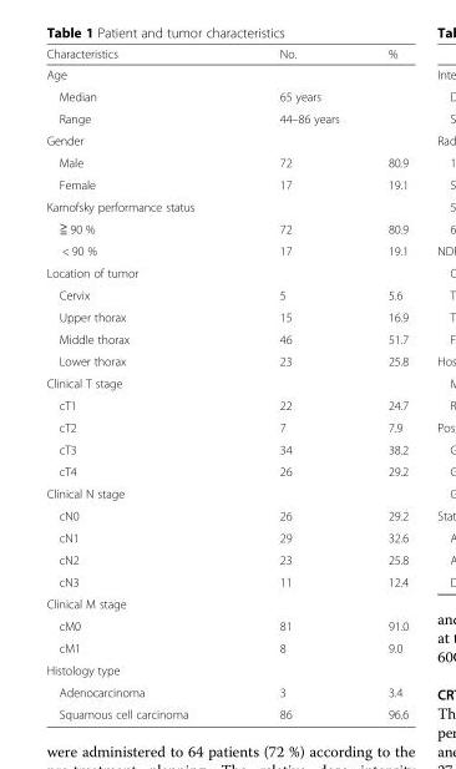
<table><thead><tr><td>Characteristics</td><td>No.</td><td>%</td></tr></thead><tbody><tr><td colspan="3">Age</td></tr><tr><td>Median</td><td colspan="2">65 years</td></tr><tr><td>Range</td><td colspan="2">44–86 years</td></tr><tr><td colspan="3">Gender</td></tr><tr><td>Male</td><td>72</td><td>80.9</td></tr><tr><td>Female</td><td>17</td><td>19.1</td></tr><tr><td colspan="3">Karnofsky performance status</td></tr><tr><td>≧ 90 %</td><td>72</td><td>80.9</td></tr><tr><td>&lt; 90 %</td><td>17</td><td>19.1</td></tr><tr><td colspan="3">Location of tumor</td></tr><tr><td>Cervix</td><td>5</td><td>5.6</td></tr><tr><td>Upper thorax</td><td>15</td><td>16.9</td></tr><tr><td>Middle thorax</td><td>46</td><td>51.7</td></tr><tr><td>Lower thorax</td><td>23</td><td>25.8</td></tr><tr><td colspan="3">Clinical T stage</td></tr><tr><td>cT1</td><td>22</td><td>24.7</td></tr><tr><td>cT2</td><td>7</td><td>7.9</td></tr><tr><td>cT3</td><td>34</td><td>38.2</td></tr><tr><td>cT4</td><td>26</td><td>29.2</td></tr><tr><td colspan="3">Clinical N stage</td></tr><tr><td>cN0</td><td>26</td><td>29.2</td></tr><tr><td>cN1</td><td>29</td><td>32.6</td></tr><tr><td>cN2</td><td>23</td><td>25.8</td></tr><tr><td>cN3</td><td>11</td><td>12.4</td></tr><tr><td colspan="3">Clinical M stage</td></tr><tr><td>cM0</td><td>81</td><td>91.0</td></tr><tr><td>cM1</td><td>8</td><td>9.0</td></tr><tr><td colspan="3">Histology type</td></tr><tr><td>Adenocarcinoma</td><td>3</td><td>3.4</td></tr><tr><td>Squamous cell carcinoma</td><td>86</td><td>96.6</td></tr></tbody></table>